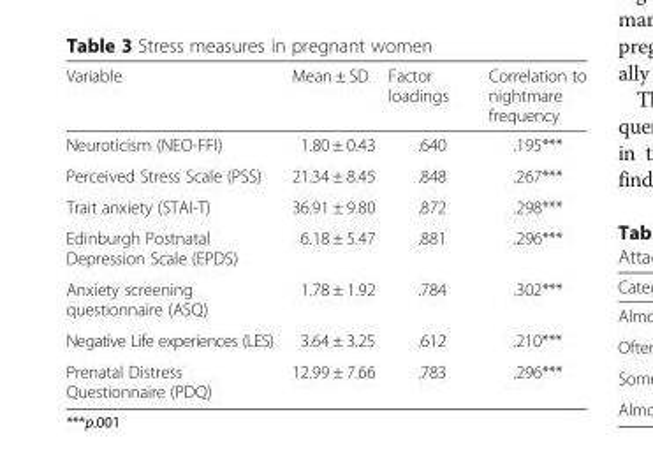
<table><thead><tr><td>Variable</td><td>Mean ± SD</td><td>Factor loadings</td><td>Correlation to nightmare frequency</td></tr></thead><tbody><tr><td>Neuroticism (NEO-FFI)</td><td>1.80 ± 0.43</td><td>.640</td><td>.195***</td></tr><tr><td>Perceived Stress Scale (PSS)</td><td>21.34 ± 8.45</td><td>.848</td><td>.267***</td></tr><tr><td>Trait anxiety (STAI-T)</td><td>36.91 ± 9.80</td><td>.872</td><td>.298***</td></tr><tr><td>Edinburgh Postnatal Depression Scale (EPDS)</td><td>6.18 ± 5.47</td><td>.881</td><td>.296***</td></tr><tr><td>Anxiety screening questionnaire (ASQ)</td><td>1.78 ± 1.92</td><td>.784</td><td>.302***</td></tr><tr><td>Negative Life experiences (LES)</td><td>3.64 ± 3.25</td><td>.612</td><td>.210***</td></tr><tr><td>Prenatal Distress Questionnaire (PDQ)</td><td>12.99 ± 7.66</td><td>.783</td><td>.296***</td></tr></tbody></table>